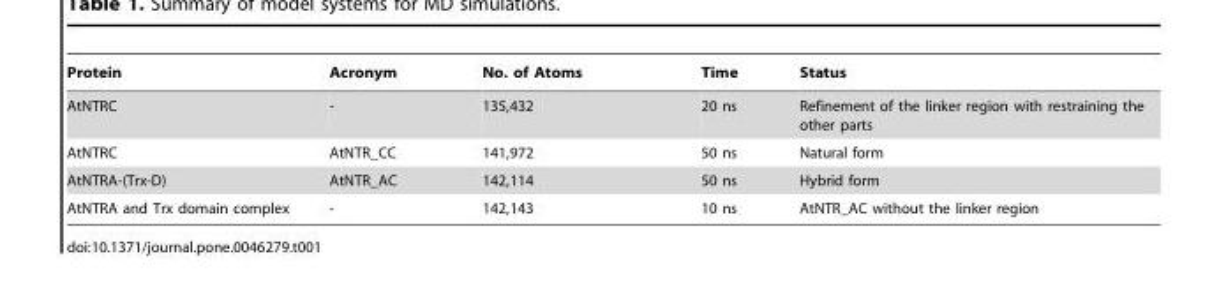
<table><thead><tr><td>Protein</td><td>Acronym</td><td>No. of Atoms</td><td>Time</td><td>Status</td></tr></thead><tbody><tr><td>AtNTRC</td><td>-</td><td>135,432</td><td>20 ns</td><td>Refinement of the linker region with restraining the other parts</td></tr><tr><td>AtNTRC</td><td>AtNTR_CC</td><td>141,972</td><td>50 ns</td><td>Natural form</td></tr><tr><td>AtNTRA-(Trx-D)</td><td>AtNTR_AC</td><td>142,114</td><td>50 ns</td><td>Hybrid form</td></tr><tr><td>AtNTRA and Trx domain complex</td><td>-</td><td>142,143</td><td>10 ns</td><td>AtNTR_AC without the linker region</td></tr></tbody></table>